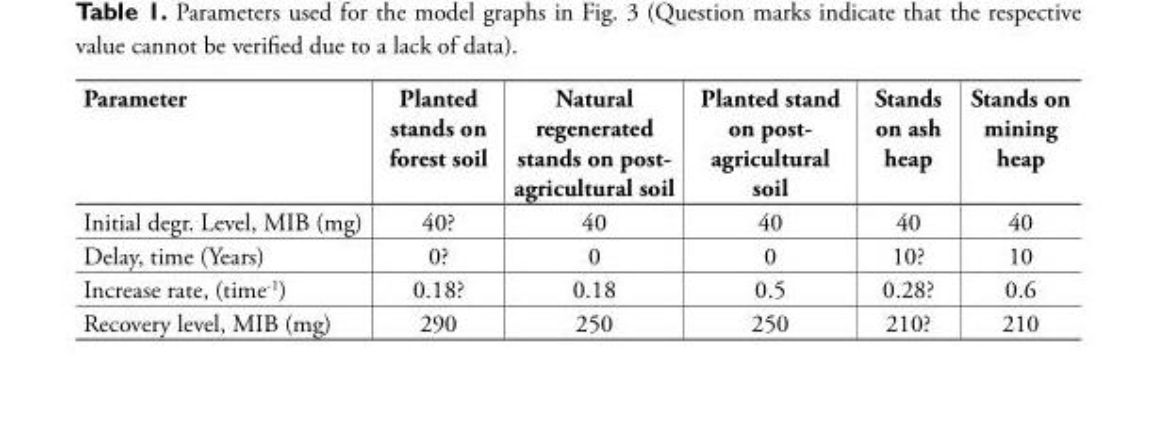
<table><thead><tr><td>Parameter</td><td>Planted stands on forest soil</td><td>Natural regenerated stands on post- agricultural soil</td><td>Planted stand on post- agricultural soil</td><td>Stands on ash heap</td><td>Stands on mining heap</td></tr></thead><tbody><tr><td>Initial degr. Level, MIB (mg)</td><td>40?</td><td>40</td><td>40</td><td>40</td><td>40</td></tr><tr><td>Delay, time (Years)</td><td>0?</td><td>0</td><td>0</td><td>10?</td><td>10</td></tr><tr><td>Increase rate, (time-1)</td><td>0.18?</td><td>0.18</td><td>0.5</td><td>0.28?</td><td>0.6</td></tr><tr><td>Recovery level, MIB (mg)</td><td>290</td><td>250</td><td>250</td><td>210?</td><td>210</td></tr></tbody></table>